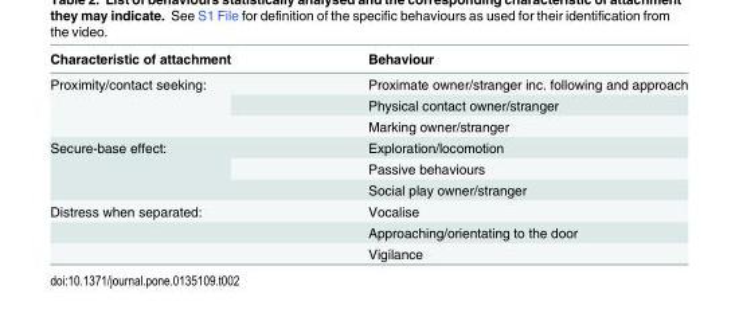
<table><thead><tr><td>Characteristic of attachment</td><td>Behaviour</td></tr></thead><tbody><tr><td rowspan="3">Proximity/contact seeking:</td><td>Proximate owner/stranger inc. following and approach</td></tr><tr><td>Physical contact owner/stranger</td></tr><tr><td>Marking owner/stranger</td></tr><tr><td rowspan="3">Secure-base effect:</td><td>Exploration/locomotion</td></tr><tr><td>Passive behaviours</td></tr><tr><td>Social play owner/stranger</td></tr><tr><td rowspan="3">Distress when separated:</td><td>Vocalise</td></tr><tr><td>Approaching/orientating to the door</td></tr><tr><td>Vigilance</td></tr></tbody></table>